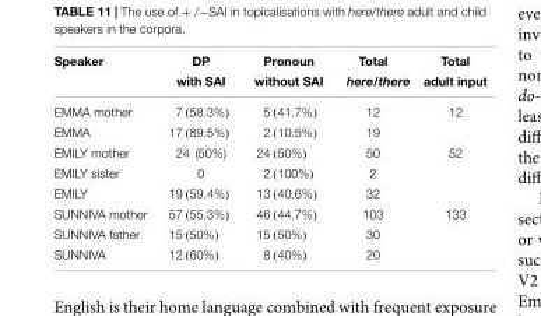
<table><thead><tr><td rowspan="2">Speaker</td><td rowspan="2">DP with SAI</td><td rowspan="2">Pronoun without SAI</td><td rowspan="2">Total here/there</td><td rowspan="2">Total adult input</td></tr><tr></tr></thead><tbody><tr><td>EMMA mother</td><td>7 (58.3%)</td><td>5 (41.7%)</td><td>12</td><td>12</td></tr><tr><td>EMMA</td><td>17 (89.5%)</td><td>2 (10.5%)</td><td>19</td><td></td></tr><tr><td>EMILY mother</td><td>24 (50%)</td><td>24 (50%)</td><td>50</td><td>52</td></tr><tr><td>EMILY sister</td><td>0</td><td>2 (100%)</td><td>2</td><td></td></tr><tr><td>EMILY</td><td>19 (59.4%)</td><td>13 (40.6%)</td><td>32</td><td></td></tr><tr><td>SUNNIVA mother</td><td>57 (55.3%)</td><td>46 (44.7%)</td><td>103</td><td>133</td></tr><tr><td>SUNNIVA father</td><td>15 (50%)</td><td>15 (50%)</td><td>30</td><td></td></tr><tr><td>SUNNIVA</td><td>12 (60%)</td><td>8 (40%)</td><td>20</td><td></td></tr></tbody></table>